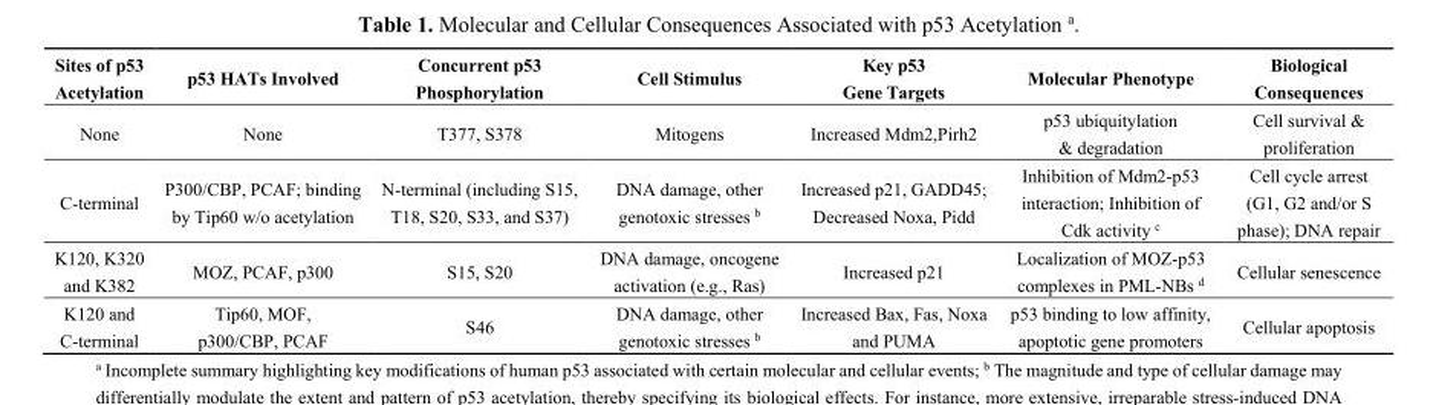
<table><thead><tr><td>Sites of p53 Acetylation</td><td>p53 HATs Involved</td><td>Concurrent p53 Phosphorylation</td><td>Cell Stimulus</td><td>Key p53 Gene Targets</td><td>Molecular Phenotype</td><td>Biological Consequences</td></tr></thead><tbody><tr><td>None</td><td>None</td><td>T377, S378</td><td>Mitogens</td><td>Increased Mdm2,Pirh2</td><td>p53 ubiquitylation &amp; degradation</td><td>Cell survival &amp; proliferation</td></tr><tr><td>C-terminal</td><td>P300/CBP, PCAF; binding by Tip60 w/o acetylation</td><td>N-terminal (including S15, T18, S20, S33, and S37)</td><td>DNA damage, other genotoxic stresses <sup>b</sup></td><td>Increased p21, GADD45; Decreased Noxa, Pidd</td><td>Inhibition of Mdm2-p53 interaction; Inhibition of Cdk activity <sup>c</sup></td><td>Cell cycle arrest (G1, G2 and/or S phase); DNA repair</td></tr><tr><td>K120, K320 and K382</td><td>MOZ, PCAF, p300</td><td>S15, S20</td><td>DNA damage, oncogene activation (e.g., Ras)</td><td>Increased p21</td><td>Localization of MOZ-p53 complexes in PML-NBs <sup>d</sup></td><td>Cellular senescence</td></tr><tr><td>K120 and C-terminal</td><td>Tip60, MOF, p300/CBP, PCAF</td><td>S46</td><td>DNA damage, other genotoxic stresses <sup>b</sup></td><td>Increased Bax, Fas, Noxa and PUMA</td><td>p53 binding to low affinity, apoptotic gene promoters</td><td>Cellular apoptosis</td></tr></tbody></table>